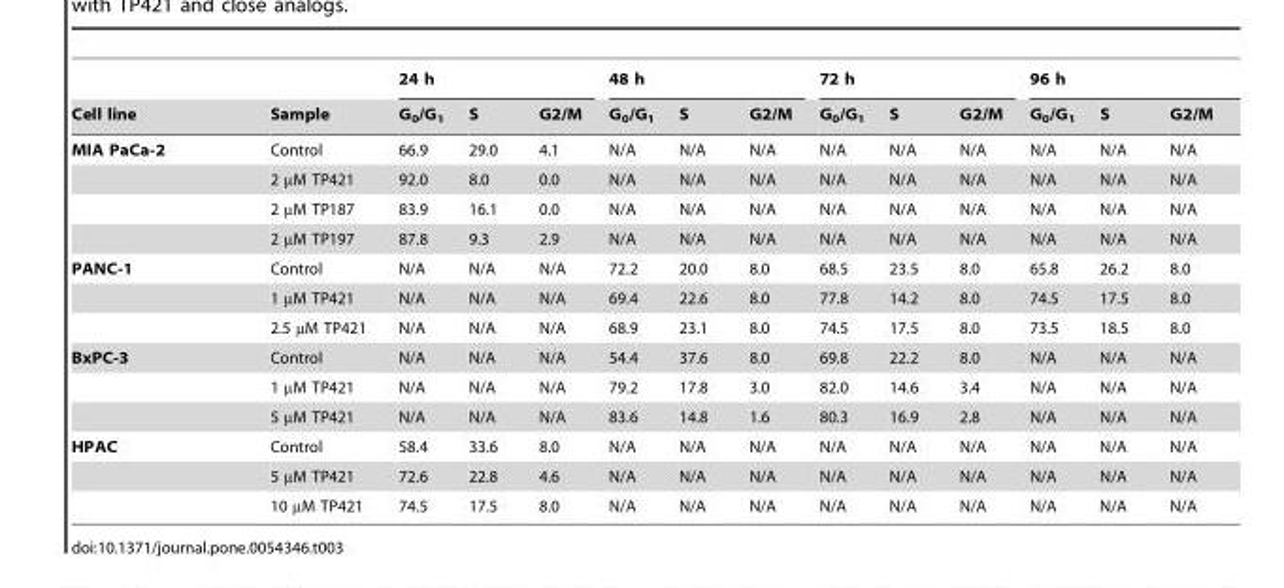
<table><thead><tr><td rowspan="2">Cell line</td><td rowspan="2">Sample</td><td colspan="3">24 h</td><td colspan="3">48 h</td><td colspan="3">72 h</td><td colspan="3">96 h</td></tr><tr><td>G<sub>0</sub>/G<sub>1</sub></td><td>S</td><td>G2/M</td><td>G<sub>0</sub>/G<sub>1</sub></td><td>S</td><td>G2/M</td><td>G<sub>0</sub>/G<sub>1</sub></td><td>S</td><td>G2/M</td><td>G<sub>0</sub>/G<sub>1</sub></td><td>S</td><td>G2/M</td></tr></thead><tbody><tr><td rowspan="4">MIA PaCa-2</td><td>Control</td><td>66.9</td><td>29.0</td><td>4.1</td><td>N/A</td><td>N/A</td><td>N/A</td><td>N/A</td><td>N/A</td><td>N/A</td><td>N/A</td><td>N/A</td><td>N/A</td></tr><tr><td>2 µM TP421</td><td>92.0</td><td>8.0</td><td>0.0</td><td>N/A</td><td>N/A</td><td>N/A</td><td>N/A</td><td>N/A</td><td>N/A</td><td>N/A</td><td>N/A</td><td>N/A</td></tr><tr><td>2 µM TP187</td><td>83.9</td><td>16.1</td><td>0.0</td><td>N/A</td><td>N/A</td><td>N/A</td><td>N/A</td><td>N/A</td><td>N/A</td><td>N/A</td><td>N/A</td><td>N/A</td></tr><tr><td>2 µM TP197</td><td>87.8</td><td>9.3</td><td>2.9</td><td>N/A</td><td>N/A</td><td>N/A</td><td>N/A</td><td>N/A</td><td>N/A</td><td>N/A</td><td>N/A</td><td>N/A</td></tr><tr><td rowspan="3">PANC-1</td><td>Control</td><td>N/A</td><td>N/A</td><td>N/A</td><td>72.2</td><td>20.0</td><td>8.0</td><td>68.5</td><td>23.5</td><td>8.0</td><td>65.8</td><td>26.2</td><td>8.0</td></tr><tr><td>1 µM TP421</td><td>N/A</td><td>N/A</td><td>N/A</td><td>69.4</td><td>22.6</td><td>8.0</td><td>77.8</td><td>14.2</td><td>8.0</td><td>74.5</td><td>17.5</td><td>8.0</td></tr><tr><td>2.5 µM TP421</td><td>N/A</td><td>N/A</td><td>N/A</td><td>68.9</td><td>23.1</td><td>8.0</td><td>74.5</td><td>17.5</td><td>8.0</td><td>73.5</td><td>18.5</td><td>8.0</td></tr><tr><td rowspan="3">BxPC-3</td><td>Control</td><td>N/A</td><td>N/A</td><td>N/A</td><td>54.4</td><td>37.6</td><td>8.0</td><td>69.8</td><td>22.2</td><td>8.0</td><td>N/A</td><td>N/A</td><td>N/A</td></tr><tr><td>1 µM TP421</td><td>N/A</td><td>N/A</td><td>N/A</td><td>79.2</td><td>17.8</td><td>3.0</td><td>82.0</td><td>14.6</td><td>3.4</td><td>N/A</td><td>N/A</td><td>N/A</td></tr><tr><td>5 µM TP421</td><td>N/A</td><td>N/A</td><td>N/A</td><td>83.6</td><td>14.8</td><td>1.6</td><td>80.3</td><td>16.9</td><td>2.8</td><td>N/A</td><td>N/A</td><td>N/A</td></tr><tr><td rowspan="3">HPAC</td><td>Control</td><td>58.4</td><td>33.6</td><td>8.0</td><td>N/A</td><td>N/A</td><td>N/A</td><td>N/A</td><td>N/A</td><td>N/A</td><td>N/A</td><td>N/A</td><td>N/A</td></tr><tr><td>5 µM TP421</td><td>72.6</td><td>22.8</td><td>4.6</td><td>N/A</td><td>N/A</td><td>N/A</td><td>N/A</td><td>N/A</td><td>N/A</td><td>N/A</td><td>N/A</td><td>N/A</td></tr><tr><td>10 µM TP421</td><td>74.5</td><td>17.5</td><td>8.0</td><td>N/A</td><td>N/A</td><td>N/A</td><td>N/A</td><td>N/A</td><td>N/A</td><td>N/A</td><td>N/A</td><td>N/A</td></tr></tbody></table>